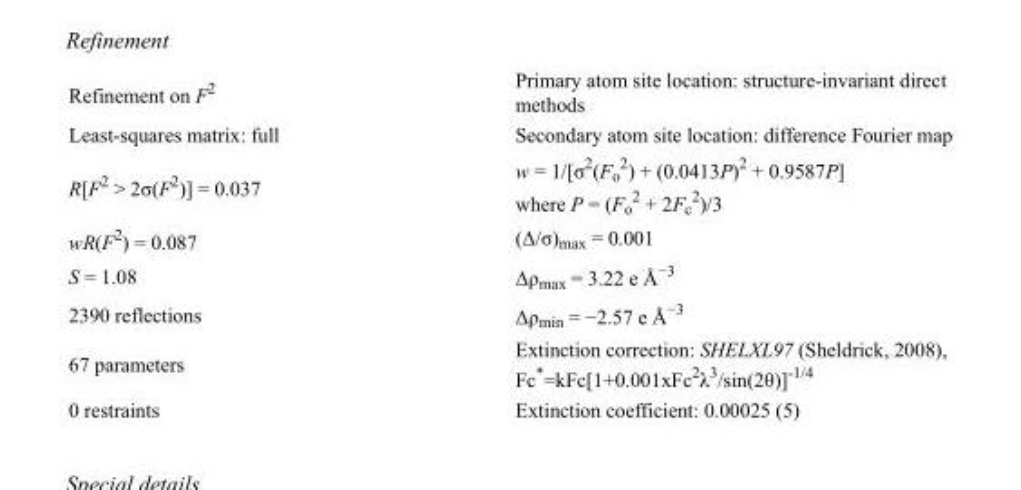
<table><tbody><tr><td>Refinement on F<sup>2</sup></td><td>Primary atom site location: structure-invariant direct methods</td></tr><tr><td>Least-squares matrix: full</td><td>Secondary atom site location: difference Fourier map</td></tr><tr><td>R[F<sup>2</sup> &gt; 2σ(F<sup>2</sup>)] = 0.037</td><td>w = 1/[σ<sup>2</sup>(F<sub>o</sub> <sup>2</sup>) + (0.0413P)<sup>2</sup> + 0.9587P] where P = (F<sub>o</sub> <sup>2</sup> + 2F<sub>c</sub> <sup>2</sup>)/3</td></tr><tr><td>wR(F<sup>2</sup>) = 0.087</td><td>(Δ/σ)<sub>max</sub> = 0.001</td></tr><tr><td>S = 1.08</td><td>Δρ<sub>max</sub> = 3.22 e Å<sup>−3</sup></td></tr><tr><td>2390 reflections</td><td>Δρ<sub>min</sub> = −2.57 e Å<sup>−3</sup></td></tr><tr><td>67 parameters</td><td>Extinction correction: SHELXL97 (Sheldrick, 2008), Fc*=kFc[1+0.001xFc<sup>2</sup>λ<sup>3</sup>/sin(2θ)]<sup>-1/4</sup></td></tr><tr><td>0 restraints</td><td>Extinction coefficient: 0.00025 (5)</td></tr></tbody></table>